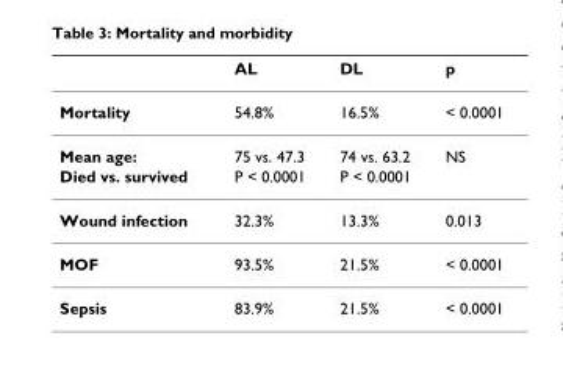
<table><thead><tr><td></td><td>AL</td><td>DL</td><td>p</td></tr></thead><tbody><tr><td>Mortality</td><td>54.8%</td><td>16.5%</td><td>&lt; 0.0001</td></tr><tr><td>Mean age:</td><td>75 vs. 47.3</td><td>74 vs. 63.2</td><td>NS</td></tr><tr><td>Died vs. survived</td><td>P &lt; 0.0001</td><td>P &lt; 0.0001</td><td></td></tr><tr><td>Wound infection</td><td>32.3%</td><td>13.3%</td><td>0.013</td></tr><tr><td>MOF</td><td>93.5%</td><td>21.5%</td><td>&lt; 0.0001</td></tr><tr><td>Sepsis</td><td>83.9%</td><td>21.5%</td><td>&lt; 0.0001</td></tr></tbody></table>